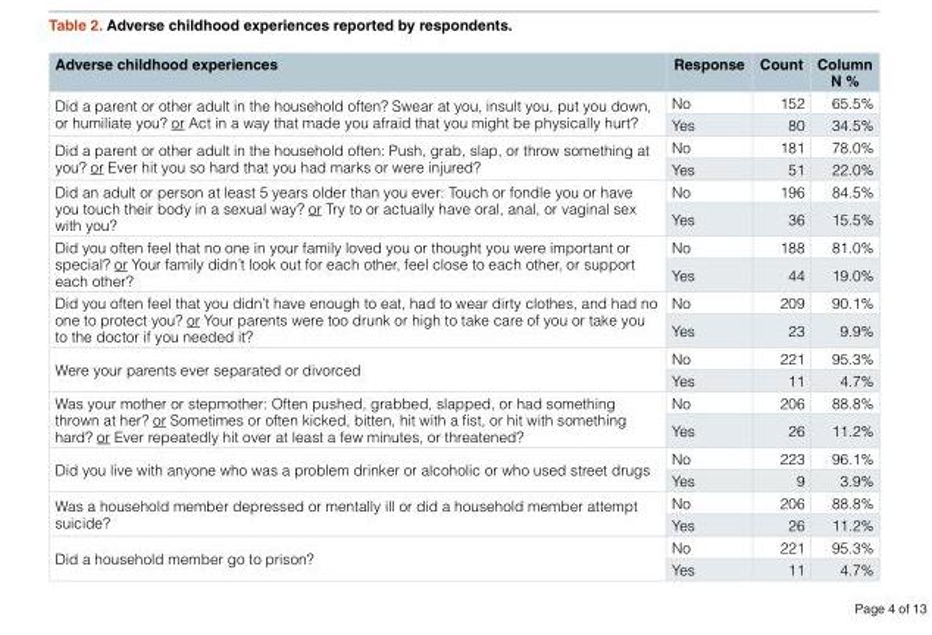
<table><thead><tr><td>Adverse childhood experiences</td><td>Response</td><td>Count</td><td>Column N %</td></tr></thead><tbody><tr><td rowspan="2">Did a parent or other adult in the household often? Swear at you, insult you, put you down, or humiliate you? or Act in a way that made you afraid that you might be physically hurt?</td><td>No</td><td>152</td><td>65.5%</td></tr><tr><td>Yes</td><td>80</td><td>34.5%</td></tr><tr><td rowspan="2">Did a parent or other adult in the household often: Push, grab, slap, or throw something at you? or Ever hit you so hard that you had marks or were injured?</td><td>No</td><td>181</td><td>78.0%</td></tr><tr><td>Yes</td><td>51</td><td>22.0%</td></tr><tr><td rowspan="2">Did an adult or person at least 5 years older than you ever: Touch or fondle you or have you touch their body in a sexual way? or Try to or actually have oral, anal, or vaginal sex with you?</td><td>No</td><td>196</td><td>84.5%</td></tr><tr><td>Yes</td><td>36</td><td>15.5%</td></tr><tr><td rowspan="2">Did you often feel that no one in your family loved you or thought you were important or special? or Your family didn’t look out for each other, feel close to each other, or support each other?</td><td>No</td><td>188</td><td>81.0%</td></tr><tr><td>Yes</td><td>44</td><td>19.0%</td></tr><tr><td rowspan="2">Did you often feel that you didn’t have enough to eat, had to wear dirty clothes, and had no one to protect you? or Your parents were too drunk or high to take care of you or take you to the doctor if you needed it?</td><td>No</td><td>209</td><td>90.1%</td></tr><tr><td>Yes</td><td>23</td><td>9.9%</td></tr><tr><td rowspan="2">Were your parents ever separated or divorced</td><td>No</td><td>221</td><td>95.3%</td></tr><tr><td>Yes</td><td>11</td><td>4.7%</td></tr><tr><td rowspan="2">Was your mother or stepmother: Often pushed, grabbed, slapped, or had something thrown at her? or Sometimes or often kicked, bitten, hit with a fist, or hit with something hard? or Ever repeatedly hit over at least a few minutes, or threatened?</td><td>No</td><td>206</td><td>88.8%</td></tr><tr><td>Yes</td><td>26</td><td>11.2%</td></tr><tr><td rowspan="2">Did you live with anyone who was a problem drinker or alcoholic or who used street drugs</td><td>No</td><td>223</td><td>96.1%</td></tr><tr><td>Yes</td><td>9</td><td>3.9%</td></tr><tr><td rowspan="2">Was a household member depressed or mentally ill or did a household member attempt suicide?</td><td>No</td><td>206</td><td>88.8%</td></tr><tr><td>Yes</td><td>26</td><td>11.2%</td></tr><tr><td rowspan="2">Did a household member go to prison?</td><td>No</td><td>221</td><td>95.3%</td></tr><tr><td>Yes</td><td>11</td><td>4.7%</td></tr></tbody></table>